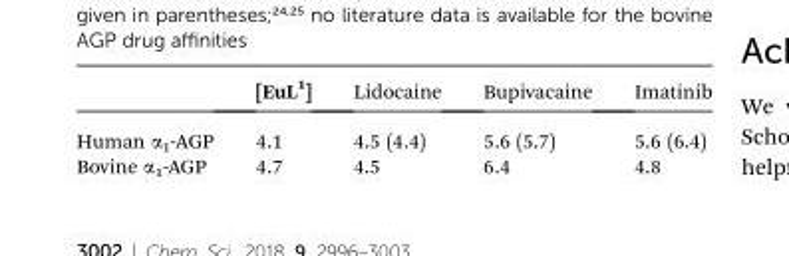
<table><thead><tr><td></td><td>[EuL<sup>1</sup>]</td><td>Lidocaine</td><td>Bupivacaine</td><td>Imatinib</td></tr></thead><tbody><tr><td>Human α<sub>1</sub>-AGP</td><td>4.1</td><td>4.5 (4.4)</td><td>5.6 (5.7)</td><td>5.6 (6.4)</td></tr><tr><td>Bovine α<sub>1</sub>-AGP</td><td>4.7</td><td>4.5</td><td>6.4</td><td>4.8</td></tr></tbody></table>